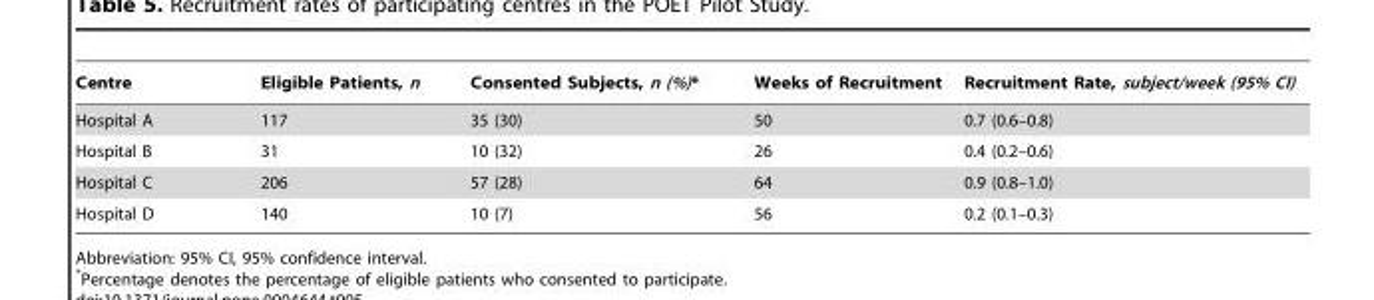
<table><thead><tr><td>Centre</td><td>Eligible Patients, n</td><td>Consented Subjects, n (%)*</td><td>Weeks of Recruitment</td><td>Recruitment Rate, subject/week (95% CI)</td></tr></thead><tbody><tr><td>Hospital A</td><td>117</td><td>35 (30)</td><td>50</td><td>0.7 (0.6–0.8)</td></tr><tr><td>Hospital B</td><td>31</td><td>10 (32)</td><td>26</td><td>0.4 (0.2–0.6)</td></tr><tr><td>Hospital C</td><td>206</td><td>57 (28)</td><td>64</td><td>0.9 (0.8–1.0)</td></tr><tr><td>Hospital D</td><td>140</td><td>10 (7)</td><td>56</td><td>0.2 (0.1–0.3)</td></tr></tbody></table>